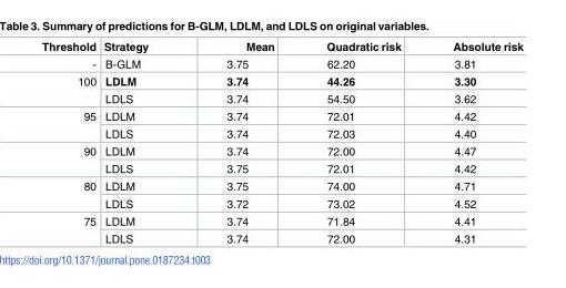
<table><thead><tr><td>Threshold</td><td>Strategy</td><td>Mean</td><td>Quadratic risk</td><td>Absolute risk</td></tr></thead><tbody><tr><td>-</td><td>B-GLM</td><td>3.75</td><td>62.20</td><td>3.81</td></tr><tr><td rowspan="2">100</td><td>LDLM</td><td>3.74</td><td>44.26</td><td>3.30</td></tr><tr><td>LDLS</td><td>3.74</td><td>54.50</td><td>3.62</td></tr><tr><td rowspan="2">95</td><td>LDLM</td><td>3.74</td><td>72.01</td><td>4.42</td></tr><tr><td>LDLS</td><td>3.74</td><td>72.03</td><td>4.40</td></tr><tr><td rowspan="2">90</td><td>LDLM</td><td>3.74</td><td>72.00</td><td>4.47</td></tr><tr><td>LDLS</td><td>3.75</td><td>72.01</td><td>4.42</td></tr><tr><td rowspan="2">80</td><td>LDLM</td><td>3.75</td><td>74.00</td><td>4.71</td></tr><tr><td>LDLS</td><td>3.72</td><td>73.02</td><td>4.52</td></tr><tr><td rowspan="2">75</td><td>LDLM</td><td>3.74</td><td>71.84</td><td>4.41</td></tr><tr><td>LDLS</td><td>3.74</td><td>72.00</td><td>4.31</td></tr></tbody></table>